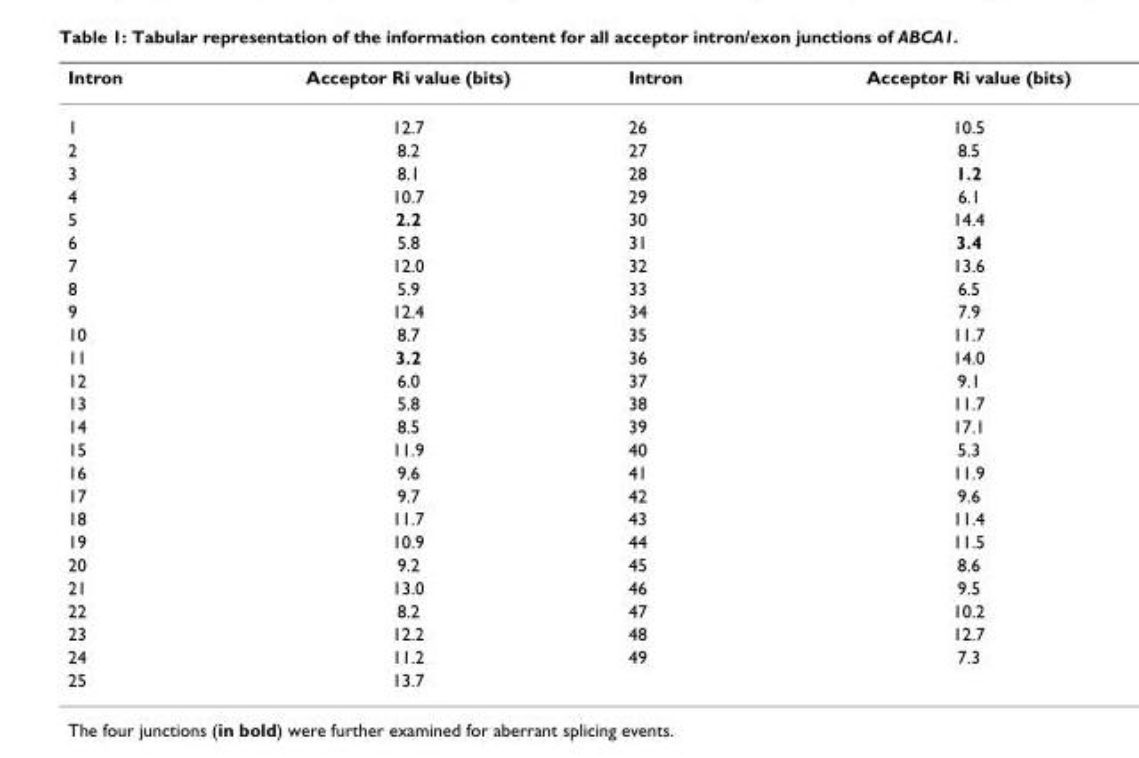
<table><thead><tr><td>Intron</td><td>Acceptor Ri value (bits)</td><td>Intron</td><td>Acceptor Ri value (bits)</td></tr></thead><tbody><tr><td>1</td><td>12.7</td><td>26</td><td>10.5</td></tr><tr><td>2</td><td>8.2</td><td>27</td><td>8.5</td></tr><tr><td>3</td><td>8.1</td><td>28</td><td>1.2</td></tr><tr><td>4</td><td>10.7</td><td>29</td><td>6.1</td></tr><tr><td>5</td><td>2.2</td><td>30</td><td>14.4</td></tr><tr><td>6</td><td>5.8</td><td>31</td><td>3.4</td></tr><tr><td>7</td><td>12.0</td><td>32</td><td>13.6</td></tr><tr><td>8</td><td>5.9</td><td>33</td><td>6.5</td></tr><tr><td>9</td><td>12.4</td><td>34</td><td>7.9</td></tr><tr><td>10</td><td>8.7</td><td>35</td><td>11.7</td></tr><tr><td>11</td><td>3.2</td><td>36</td><td>14.0</td></tr><tr><td>12</td><td>6.0</td><td>37</td><td>9.1</td></tr><tr><td>13</td><td>5.8</td><td>38</td><td>11.7</td></tr><tr><td>14</td><td>8.5</td><td>39</td><td>17.1</td></tr><tr><td>15</td><td>11.9</td><td>40</td><td>5.3</td></tr><tr><td>16</td><td>9.6</td><td>41</td><td>11.9</td></tr><tr><td>17</td><td>9.7</td><td>42</td><td>9.6</td></tr><tr><td>18</td><td>11.7</td><td>43</td><td>11.4</td></tr><tr><td>19</td><td>10.9</td><td>44</td><td>11.5</td></tr><tr><td>20</td><td>9.2</td><td>45</td><td>8.6</td></tr><tr><td>21</td><td>13.0</td><td>46</td><td>9.5</td></tr><tr><td>22</td><td>8.2</td><td>47</td><td>10.2</td></tr><tr><td>23</td><td>12.2</td><td>48</td><td>12.7</td></tr><tr><td>24</td><td>11.2</td><td>49</td><td>7.3</td></tr><tr><td>25</td><td>13.7</td><td></td><td></td></tr></tbody></table>